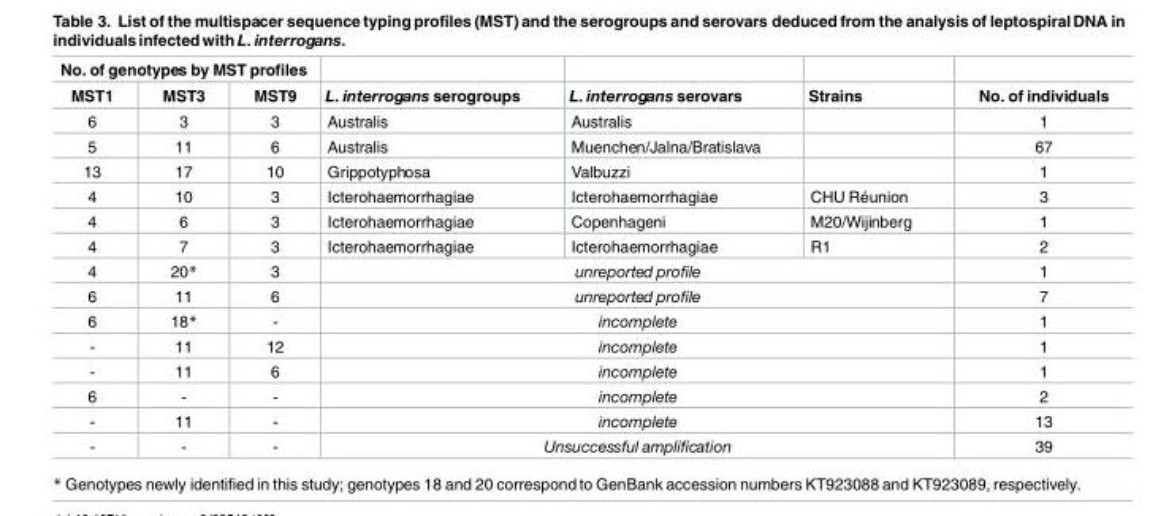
<table><thead><tr><td colspan="3">No. of genotypes by MST profiles</td><td rowspan="2">L. interrogans serogroups</td><td rowspan="2">L. interrogans serovars</td><td rowspan="2">Strains</td><td rowspan="2">No. of individuals</td></tr><tr><td>MST1</td><td>MST3</td><td>MST9</td></tr></thead><tbody><tr><td>6</td><td>3</td><td>3</td><td>Australis</td><td>Australis</td><td></td><td>1</td></tr><tr><td>5</td><td>11</td><td>6</td><td>Australis</td><td>Muenchen/Jalna/Bratislava</td><td></td><td>67</td></tr><tr><td>13</td><td>17</td><td>10</td><td>Grippotyphosa</td><td>Valbuzzi</td><td></td><td>1</td></tr><tr><td>4</td><td>10</td><td>3</td><td>Icterohaemorrhagiae</td><td>Icterohaemorrhagiae</td><td>CHU Réunion</td><td>3</td></tr><tr><td>4</td><td>6</td><td>3</td><td>Icterohaemorrhagiae</td><td>Copenhageni</td><td>M20/Wijinberg</td><td>1</td></tr><tr><td>4</td><td>7</td><td>3</td><td>Icterohaemorrhagiae</td><td>Icterohaemorrhagiae</td><td>R1</td><td>2</td></tr><tr><td>4</td><td>20*</td><td>3</td><td colspan="3">unreported profile</td><td>1</td></tr><tr><td>6</td><td>11</td><td>6</td><td colspan="3">unreported profile</td><td>7</td></tr><tr><td>6</td><td>18*</td><td>-</td><td colspan="3">incomplete</td><td>1</td></tr><tr><td>-</td><td>11</td><td>12</td><td colspan="3">incomplete</td><td>1</td></tr><tr><td>-</td><td>11</td><td>6</td><td colspan="3">incomplete</td><td>1</td></tr><tr><td>6</td><td>-</td><td>-</td><td colspan="3">incomplete</td><td>2</td></tr><tr><td>-</td><td>11</td><td>-</td><td colspan="3">incomplete</td><td>13</td></tr><tr><td>-</td><td>-</td><td>-</td><td colspan="3">Unsuccessful amplification</td><td>39</td></tr></tbody></table>